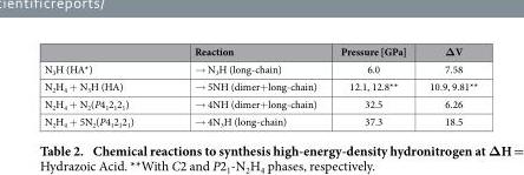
<table><thead><tr><td></td><td>Reaction</td><td>Pressure [GPa]</td><td>ΔV</td></tr></thead><tbody><tr><td>N<sub>3</sub>H (HA*)</td><td>→ N<sub>3</sub>H (long-chain)</td><td>6.0</td><td>7.58</td></tr><tr><td>N<sub>2</sub>H<sub>4</sub> + N<sub>3</sub>H (HA)</td><td>→ 5NH (dimer+ long-chain)</td><td>12.1, 12.8**</td><td>10.9, 9.81**</td></tr><tr><td>N<sub>2</sub>H<sub>4</sub> + N<sub>2</sub>(P4<sub>1</sub>2<sub>1</sub>2<sub>1</sub>)</td><td>→ 4NH (dimer+ long-chain)</td><td>32.5</td><td>6.26</td></tr><tr><td>N<sub>2</sub>H<sub>4</sub> + 5N<sub>2</sub>(P4<sub>1</sub>2<sub>1</sub>2<sub>1</sub>)</td><td>→ 4N<sub>3</sub>H (long-chain)</td><td>37.3</td><td>18.5</td></tr></tbody></table>